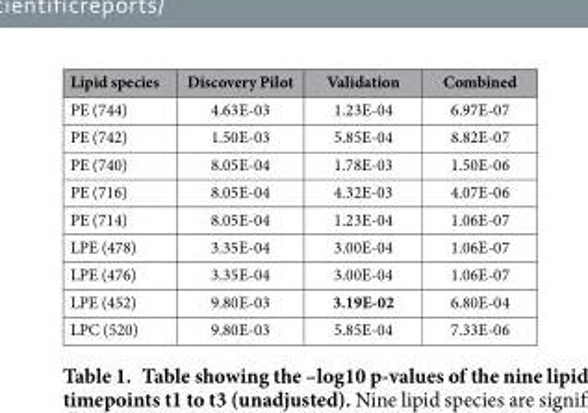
<table><thead><tr><td>Lipid species</td><td>Discovery Pilot</td><td>Validation</td><td>Combined</td></tr></thead><tbody><tr><td>PE (744)</td><td>4.63E-03</td><td>1.23E-04</td><td>6.97E-07</td></tr><tr><td>PE (742)</td><td>1.50E-03</td><td>5.85E-04</td><td>8.82E-07</td></tr><tr><td>PE (740)</td><td>8.05E-04</td><td>1.78E-03</td><td>1.50E-06</td></tr><tr><td>PE (716)</td><td>8.05E-04</td><td>4.32E-03</td><td>4.07E-06</td></tr><tr><td>PE (714)</td><td>8.05E-04</td><td>1.23E-04</td><td>1.06E-07</td></tr><tr><td>LPE (478)</td><td>3.35E-04</td><td>3.00E-04</td><td>1.06E-07</td></tr><tr><td>LPE (476)</td><td>3.35E-04</td><td>3.00E-04</td><td>1.06E-07</td></tr><tr><td>LPE (452)</td><td>9.80E-03</td><td>3.19E-02</td><td>6.80E-04</td></tr><tr><td>LPC (520)</td><td>9.80E-03</td><td>5.85E-04</td><td>7.33E-06</td></tr></tbody></table>